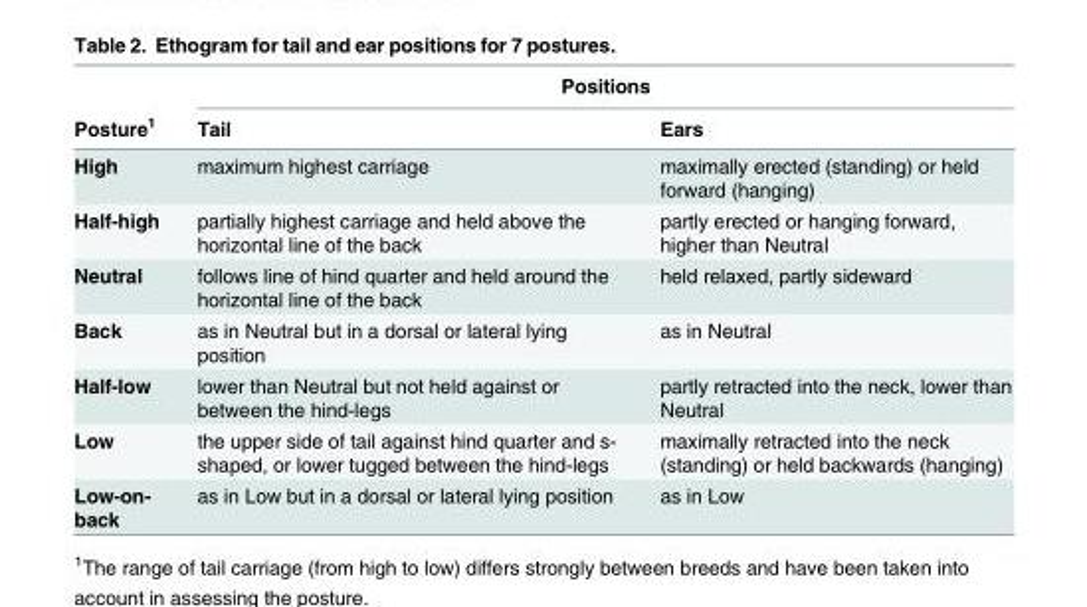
<table><thead><tr><td rowspan="2">Posture<sup>1</sup></td><td colspan="2">Positions</td></tr><tr><td>Tail</td><td>Ears</td></tr></thead><tbody><tr><td>High</td><td>maximum highest carriage</td><td>maximally erected (standing) or held forward (hanging)</td></tr><tr><td>Half-high</td><td>partially highest carriage and held above the horizontal line of the back</td><td>partly erected or hanging forward, higher than Neutral</td></tr><tr><td>Neutral</td><td>follows line of hind quarter and held around the horizontal line of the back</td><td>held relaxed, partly sideward</td></tr><tr><td>Back</td><td>as in Neutral but in a dorsal or lateral lying position</td><td>as in Neutral</td></tr><tr><td>Half-low</td><td>lower than Neutral but not held against or between the hind-legs</td><td>partly retracted into the neck, lower than Neutral</td></tr><tr><td>Low</td><td>the upper side of tail against hind quarter and s- shaped, or lower tugged between the hind-legs</td><td>maximally retracted into the neck (standing) or held backwards (hanging)</td></tr><tr><td>Low-on- back</td><td>as in Low but in a dorsal or lateral lying position</td><td>as in Low</td></tr></tbody></table>